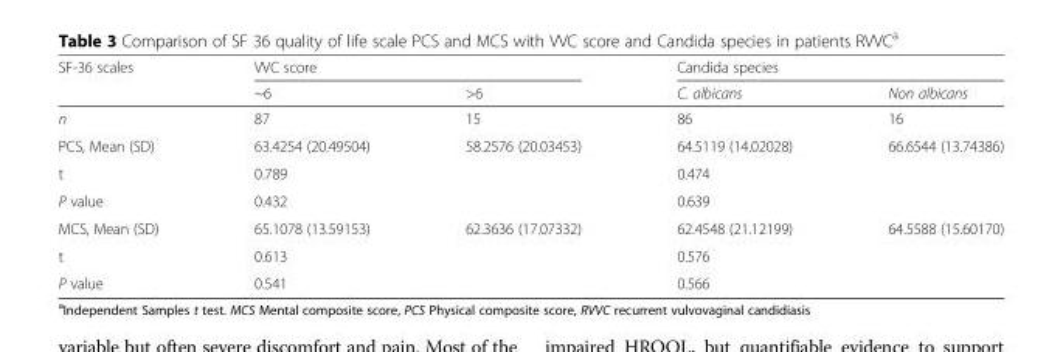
<table><thead><tr><td rowspan="2">SF-36 scales</td><td colspan="2">VVC score</td><td colspan="2">Candida species</td></tr><tr><td>~6</td><td>&gt;6</td><td>C. albicans</td><td>Non albicans</td></tr></thead><tbody><tr><td>n</td><td>87</td><td>15</td><td>86</td><td>16</td></tr><tr><td>PCS, Mean (SD)</td><td>63.4254 (20.49504)</td><td>58.2576 (20.03453)</td><td>64.5119 (14.02028)</td><td>66.6544 (13.74386)</td></tr><tr><td>t</td><td colspan="2">0.789</td><td colspan="2">0.474</td></tr><tr><td>P value</td><td colspan="2">0.432</td><td colspan="2">0.639</td></tr><tr><td>MCS, Mean (SD)</td><td>65.1078 (13.59153)</td><td>62.3636 (17.07332)</td><td>62.4548 (21.12199)</td><td>64.5588 (15.60170)</td></tr><tr><td>t</td><td colspan="2">0.613</td><td colspan="2">0.576</td></tr><tr><td>P value</td><td colspan="2">0.541</td><td colspan="2">0.566</td></tr></tbody></table>